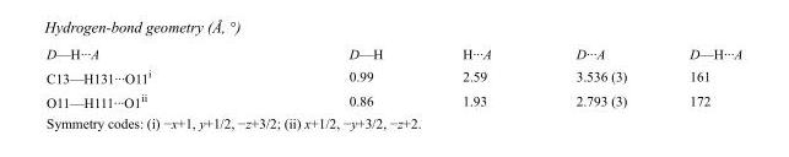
<table><tbody><tr><td>D—H···A</td><td>D—H</td><td>H···A</td><td>D···A</td><td>D—H···A</td></tr><tr><td>C13—H131···O11<sup>i</sup></td><td>0.99</td><td>2.59</td><td>3.536 (3)</td><td>161</td></tr><tr><td>O11—H111···O1<sup>ii</sup></td><td>0.86</td><td>1.93</td><td>2.793 (3)</td><td>172</td></tr></tbody></table>